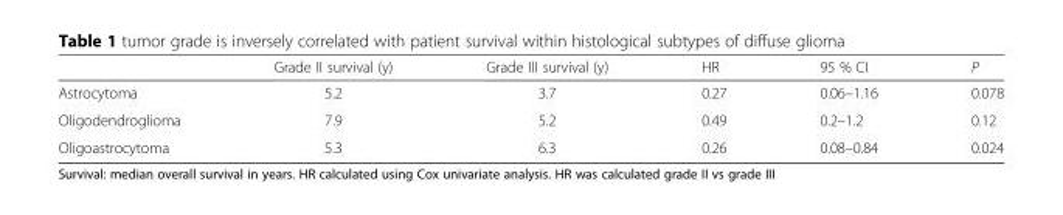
<table><thead><tr><td></td><td>Grade II survival (y)</td><td>Grade III survival (y)</td><td>HR</td><td>95 % CI</td><td>P</td></tr></thead><tbody><tr><td>Astrocytoma</td><td>5.2</td><td>3.7</td><td>0.27</td><td>0.06–1.16</td><td>0.078</td></tr><tr><td>Oligodendroglioma</td><td>7.9</td><td>5.2</td><td>0.49</td><td>0.2–1.2</td><td>0.12</td></tr><tr><td>Oligoastrocytoma</td><td>5.3</td><td>6.3</td><td>0.26</td><td>0.08–0.84</td><td>0.024</td></tr></tbody></table>